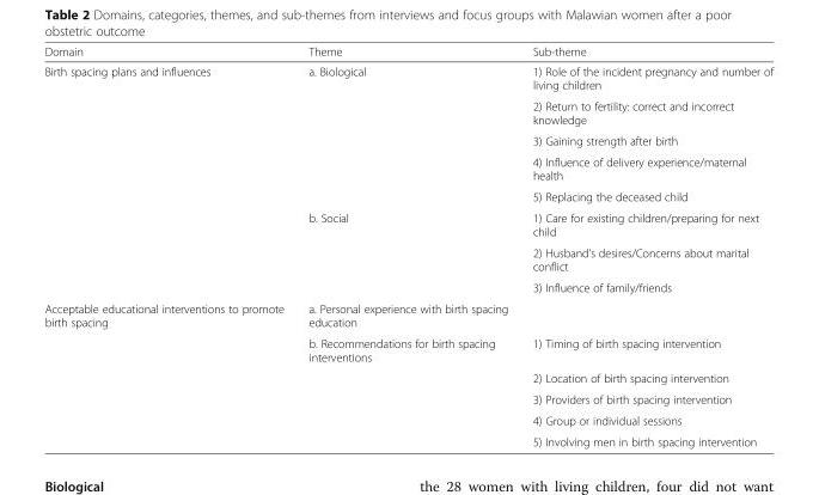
<table><thead><tr><td>Domain</td><td>Theme</td><td>Sub-theme</td></tr></thead><tbody><tr><td rowspan="8">Birth spacing plans and influences</td><td>a. Biological</td><td>1) Role of the incident pregnancy and number of living children</td></tr><tr><td></td><td>2) Return to fertility: correct and incorrect knowledge</td></tr><tr><td></td><td>3) Gaining strength after birth</td></tr><tr><td></td><td>4) Influence of delivery experience/maternal health</td></tr><tr><td></td><td>5) Replacing the deceased child</td></tr><tr><td>b. Social</td><td>1) Care for existing children/preparing for next child</td></tr><tr><td></td><td>2) Husband’s desires/Concerns about marital conflict</td></tr><tr><td></td><td>3) Influence of family/friends</td></tr><tr><td rowspan="6">Acceptable educational interventions to promote birth spacing</td><td>a. Personal experience with birth spacing education</td><td></td></tr><tr><td>b. Recommendations for birth spacing interventions</td><td>1) Timing of birth spacing intervention</td></tr><tr><td></td><td>2) Location of birth spacing intervention</td></tr><tr><td></td><td>3) Providers of birth spacing intervention</td></tr><tr><td></td><td>4) Group or individual sessions</td></tr><tr><td></td><td>5) Involving men in birth spacing intervention</td></tr></tbody></table>